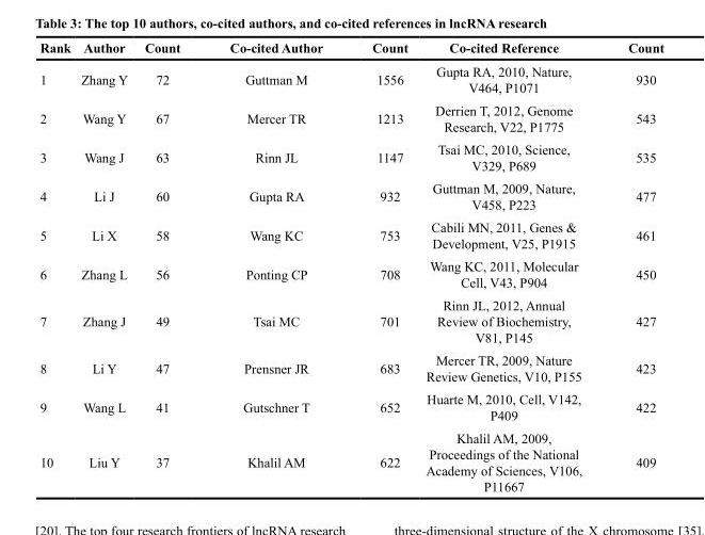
<table><thead><tr><td>Rank</td><td>Author</td><td>Count</td><td>Co-cited Author</td><td>Count</td><td>Co-cited Reference</td><td>Count</td></tr></thead><tbody><tr><td>1</td><td>Zhang Y</td><td>72</td><td>Guttman M</td><td>1556</td><td>Gupta RA, 2010, Nature, V464, P1071</td><td>930</td></tr><tr><td>2</td><td>Wang Y</td><td>67</td><td>Mercer TR</td><td>1213</td><td>Derrien T, 2012, Genome Research, V22, P1775</td><td>543</td></tr><tr><td>3</td><td>Wang J</td><td>63</td><td>Rinn JL</td><td>1147</td><td>Tsai MC, 2010, Science, V329, P689</td><td>535</td></tr><tr><td>4</td><td>Li J</td><td>60</td><td>Gupta RA</td><td>932</td><td>Guttman M, 2009, Nature, V458, P223</td><td>477</td></tr><tr><td>5</td><td>Li X</td><td>58</td><td>Wang KC</td><td>753</td><td>Cabili MN, 2011, Genes &amp; Development, V25, P1915</td><td>461</td></tr><tr><td>6</td><td>Zhang L</td><td>56</td><td>Ponting CP</td><td>708</td><td>Wang KC, 2011, Molecular Cell, V43, P904</td><td>450</td></tr><tr><td>7</td><td>Zhang J</td><td>49</td><td>Tsai MC</td><td>701</td><td>Rinn JL, 2012, Annual Review of Biochemistry, V81, P145</td><td>427</td></tr><tr><td>8</td><td>Li Y</td><td>47</td><td>Prensner JR</td><td>683</td><td>Mercer TR, 2009, Nature Review Genetics, V10, P155</td><td>423</td></tr><tr><td>9</td><td>Wang L</td><td>41</td><td>Gutschner T</td><td>652</td><td>Huarte M, 2010, Cell, V142, P409</td><td>422</td></tr><tr><td>10</td><td>Liu Y</td><td>37</td><td>Khalil AM</td><td>622</td><td>Khalil AM, 2009, Proceedings of the National Academy of Sciences, V106, P11667</td><td>409</td></tr></tbody></table>